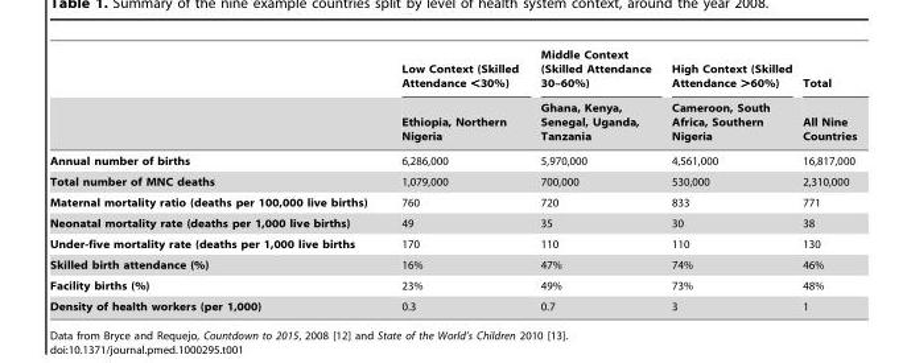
<table><thead><tr><td rowspan="2"></td><td rowspan="2">Low Context (Skilled Attendance &lt;30%) Ethiopia, Northern Nigeria</td><td rowspan="2">Middle Context (Skilled Attendance 30–60%) Ghana, Kenya, Senegal, Uganda, Tanzania</td><td rowspan="2">High Context (Skilled Attendance &gt;60%) Cameroon, South Africa, Southern Nigeria</td><td rowspan="2">Total All Nine Countries</td></tr><tr></tr></thead><tbody><tr><td>Annual number of births</td><td>6,286,000</td><td>5,970,000</td><td>4,561,000</td><td>16,817,000</td></tr><tr><td>Total number of MNC deaths</td><td>1,079,000</td><td>700,000</td><td>530,000</td><td>2,310,000</td></tr><tr><td>Maternal mortality ratio (deaths per 100,000 live births)</td><td>760</td><td>720</td><td>833</td><td>771</td></tr><tr><td>Neonatal mortality rate (deaths per 1,000 live births)</td><td>49</td><td>35</td><td>30</td><td>38</td></tr><tr><td>Under-five mortality rate (deaths per 1,000 live births</td><td>170</td><td>110</td><td>110</td><td>130</td></tr><tr><td>Skilled birth attendance (%)</td><td>16%</td><td>47%</td><td>74%</td><td>46%</td></tr><tr><td>Facility births (%)</td><td>23%</td><td>49%</td><td>73%</td><td>48%</td></tr><tr><td>Density of health workers (per 1,000)</td><td>0.3</td><td>0.7</td><td>3</td><td>1</td></tr></tbody></table>